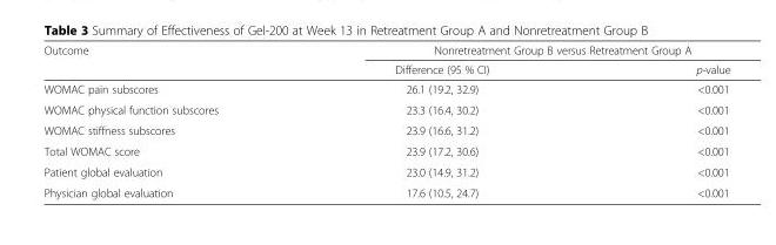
<table><thead><tr><td rowspan="2">Outcome</td><td colspan="2">Nonretreatment Group B versus Retreatment Group A</td></tr><tr><td>Difference (95 % CI)</td><td>p-value</td></tr></thead><tbody><tr><td>WOMAC pain subscores</td><td>26.1 (19.2, 32.9)</td><td>&lt;0.001</td></tr><tr><td>WOMAC physical function subscores</td><td>23.3 (16.4, 30.2)</td><td>&lt;0.001</td></tr><tr><td>WOMAC stiffness subscores</td><td>23.9 (16.6, 31.2)</td><td>&lt;0.001</td></tr><tr><td>Total WOMAC score</td><td>23.9 (17.2, 30.6)</td><td>&lt;0.001</td></tr><tr><td>Patient global evaluation</td><td>23.0 (14.9, 31.2)</td><td>&lt;0.001</td></tr><tr><td>Physician global evaluation</td><td>17.6 (10.5, 24.7)</td><td>&lt;0.001</td></tr></tbody></table>